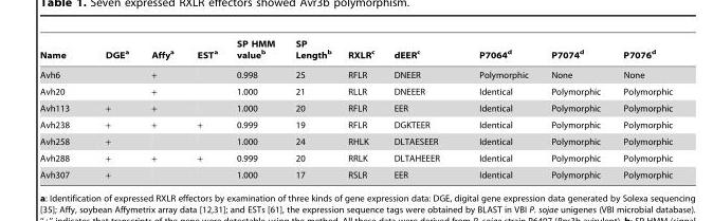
<table><thead><tr><td>Name</td><td>DGE<sup>a</sup></td><td>Affy<sup>a</sup></td><td>EST<sup>a</sup></td><td>SP HMM value<sup>b</sup></td><td>SP Length<sup>b</sup></td><td>RXLR<sup>c</sup></td><td>dEER<sup>c</sup></td><td>P7064<sup>d</sup></td><td>P7074<sup>d</sup></td><td>P7076<sup>d</sup></td></tr></thead><tbody><tr><td>Avh6</td><td></td><td>+</td><td></td><td>0.998</td><td>25</td><td>RFLR</td><td>DNEER</td><td>Polymorphic</td><td>None</td><td>None</td></tr><tr><td>Avh20</td><td></td><td>+</td><td></td><td>1.000</td><td>21</td><td>RLLR</td><td>DNEEER</td><td>Identical</td><td>Polymorphic</td><td>Polymorphic</td></tr><tr><td>Avh113</td><td>+</td><td>+</td><td></td><td>1.000</td><td>20</td><td>RFLR</td><td>EER</td><td>Identical</td><td>Polymorphic</td><td>Polymorphic</td></tr><tr><td>Avh238</td><td>+</td><td>+</td><td>+</td><td>0.999</td><td>19</td><td>RFLR</td><td>DGKTEER</td><td>Identical</td><td>Polymorphic</td><td>Polymorphic</td></tr><tr><td>Avh258</td><td>+</td><td></td><td></td><td>1.000</td><td>24</td><td>RHLK</td><td>DLTAESEER</td><td>Identical</td><td>Polymorphic</td><td>Polymorphic</td></tr><tr><td>Avh288</td><td>+</td><td>+</td><td>+</td><td>0.999</td><td>20</td><td>RRLK</td><td>DLTAHEEER</td><td>Identical</td><td>Polymorphic</td><td>Polymorphic</td></tr><tr><td>Avh307</td><td>+</td><td></td><td></td><td>1.000</td><td>17</td><td>RSLR</td><td>EER</td><td>Identical</td><td>Polymorphic</td><td>Polymorphic</td></tr></tbody></table>